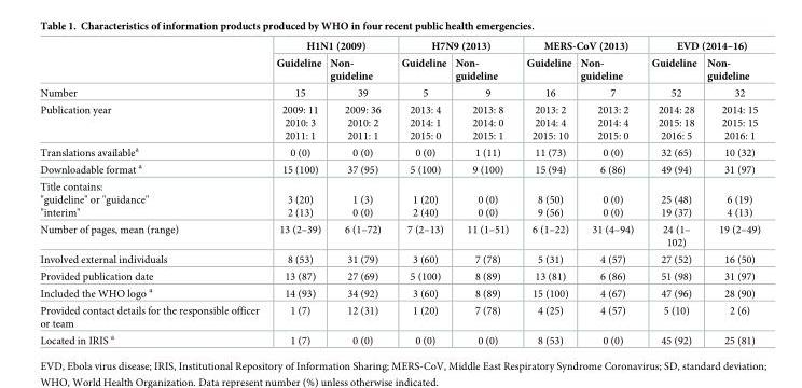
<table><thead><tr><td rowspan="2"></td><td colspan="2">H1N1 (2009)</td><td colspan="2">H7N9 (2013)</td><td colspan="2">MERS-CoV (2013)</td><td colspan="2">EVD (2014–16)</td></tr><tr><td>Guideline</td><td>Non- guideline</td><td>Guideline</td><td>Non- guideline</td><td>Guideline</td><td>Non- guideline</td><td>Guideline</td><td>Non- guideline</td></tr></thead><tbody><tr><td>Number</td><td>15</td><td>39</td><td>5</td><td>9</td><td>16</td><td>7</td><td>52</td><td>32</td></tr><tr><td>Publication year</td><td>2009: 11 2010: 3 2011: 1</td><td>2009: 36 2010: 2 2011: 1</td><td>2013: 4 2014: 1 2015: 0</td><td>2013: 8 2014: 0 2015: 1</td><td>2013: 2 2014: 4 2015: 10</td><td>2013: 2 2014: 4 2015: 0</td><td>2014: 28 2015: 18 2016: 5</td><td>2014: 15 2015: 15 2016: 1</td></tr><tr><td>Translations available<sup>a</sup></td><td>0 (0)</td><td>0 (0)</td><td>0 (0)</td><td>1 (11)</td><td>11 (73)</td><td>0 (0)</td><td>32 (65)</td><td>10 (32)</td></tr><tr><td>Downloadable format <sup>a</sup></td><td>15 (100)</td><td>37 (95)</td><td>5 (100)</td><td>9 (100)</td><td>15 (94)</td><td>6 (86)</td><td>49 (94)</td><td>31 (97)</td></tr><tr><td>Title contains: &quot;guideline&quot; or &quot;guidance&quot; &quot;interim&quot;</td><td>3 (20) 2 (13)</td><td>1 (3) 0 (0)</td><td>1 (20) 2 (40)</td><td>0 (0) 0 (0)</td><td>8 (50) 9 (56)</td><td>0 (0) 0 (0)</td><td>25 (48) 19 (37)</td><td>6 (19) 4 (13)</td></tr><tr><td>Number of pages, mean (range)</td><td>13 (2–39)</td><td>6 (1–72)</td><td>7 (2–13)</td><td>11 (1–51)</td><td>6 (1–22)</td><td>31 (4–94)</td><td>24 (1– 102)</td><td>19 (2–49)</td></tr><tr><td>Involved external individuals</td><td>8 (53)</td><td>31 (79)</td><td>3 (60)</td><td>7 (78)</td><td>5 (31)</td><td>4 (57)</td><td>27 (52)</td><td>16 (50)</td></tr><tr><td>Provided publication date</td><td>13 (87)</td><td>27 (69)</td><td>5 (100)</td><td>8 (89)</td><td>13 (81)</td><td>6 (86)</td><td>51 (98)</td><td>31 (97)</td></tr><tr><td>Included the WHO logo <sup>a</sup></td><td>14 (93)</td><td>34 (92)</td><td>3 (60)</td><td>8 (89)</td><td>15 (100)</td><td>4 (67)</td><td>47 (96)</td><td>28 (90)</td></tr><tr><td>Provided contact details for the responsible officer or team</td><td>1 (7)</td><td>12 (31)</td><td>1 (20)</td><td>7 (78)</td><td>4 (25)</td><td>4 (57)</td><td>5 (10)</td><td>2 (6)</td></tr><tr><td>Located in IRIS <sup>a</sup></td><td>1 (7)</td><td>0 (0)</td><td>0 (0)</td><td>0 (0)</td><td>8 (53)</td><td>0 (0)</td><td>45 (92)</td><td>25 (81)</td></tr></tbody></table>